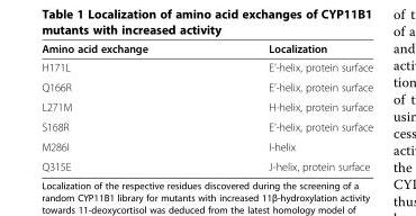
<table><thead><tr><td>Amino acid exchange</td><td>Localization</td></tr></thead><tbody><tr><td>H171L</td><td>E’-helix, protein surface</td></tr><tr><td>Q166R</td><td>E’-helix, protein surface</td></tr><tr><td>L271M</td><td>H-helix, protein surface</td></tr><tr><td>S168R</td><td>E’-helix, protein surface</td></tr><tr><td>M286I</td><td>I-helix</td></tr><tr><td>Q315E</td><td>J-helix, protein surface</td></tr></tbody></table>